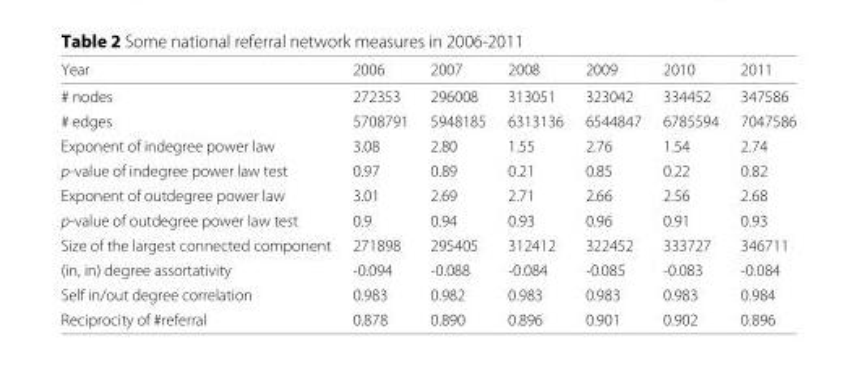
<table><thead><tr><td>Year</td><td>2006</td><td>2007</td><td>2008</td><td>2009</td><td>2010</td><td>2011</td></tr></thead><tbody><tr><td># nodes</td><td>272353</td><td>296008</td><td>313051</td><td>323042</td><td>334452</td><td>347586</td></tr><tr><td># edges</td><td>5708791</td><td>5948185</td><td>6313136</td><td>6544847</td><td>6785594</td><td>7047586</td></tr><tr><td>Exponent of indegree power law</td><td>3.08</td><td>2.80</td><td>1.55</td><td>2.76</td><td>1.54</td><td>2.74</td></tr><tr><td>p-value of indegree power law test</td><td>0.97</td><td>0.89</td><td>0.21</td><td>0.85</td><td>0.22</td><td>0.82</td></tr><tr><td>Exponent of outdegree power law</td><td>3.01</td><td>2.69</td><td>2.71</td><td>2.66</td><td>2.56</td><td>2.68</td></tr><tr><td>p-value of outdegree power law test</td><td>0.9</td><td>0.94</td><td>0.93</td><td>0.96</td><td>0.91</td><td>0.93</td></tr><tr><td>Size of the largest connected component</td><td>271898</td><td>295405</td><td>312412</td><td>322452</td><td>333727</td><td>346711</td></tr><tr><td>(in, in) degree assortativity</td><td>-0.094</td><td>-0.088</td><td>-0.084</td><td>-0.085</td><td>-0.083</td><td>-0.084</td></tr><tr><td>Self in/out degree correlation</td><td>0.983</td><td>0.982</td><td>0.983</td><td>0.983</td><td>0.983</td><td>0.984</td></tr><tr><td>Reciprocity of #referral</td><td>0.878</td><td>0.890</td><td>0.896</td><td>0.901</td><td>0.902</td><td>0.896</td></tr></tbody></table>